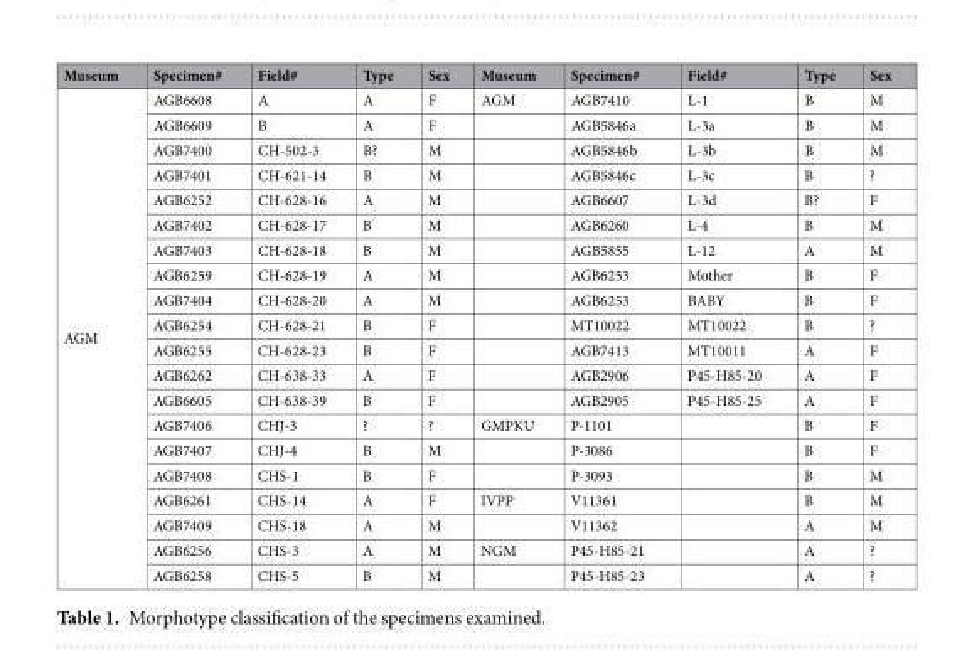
<table><thead><tr><td>Museum</td><td>Specimen#</td><td>Field#</td><td>Type</td><td>Sex</td><td>Museum</td><td>Specimen#</td><td>Field#</td><td>Type</td><td>Sex</td></tr></thead><tbody><tr><td rowspan="20">AGM</td><td>AGB6608</td><td>A</td><td>A</td><td>F</td><td>AGM</td><td>AGB7410</td><td>L-1</td><td>B</td><td>M</td></tr><tr><td>AGB6609</td><td>B</td><td>A</td><td>F</td><td></td><td>AGB5846a</td><td>L-3a</td><td>B</td><td>M</td></tr><tr><td>AGB7400</td><td>CH-502-3</td><td>B?</td><td>M</td><td></td><td>AGB5846b</td><td>L-3b</td><td>B</td><td>M</td></tr><tr><td>AGB7401</td><td>CH-621-14</td><td>B</td><td>M</td><td></td><td>AGB5846c</td><td>L-3c</td><td>B</td><td>?</td></tr><tr><td>AGB6252</td><td>CH-628-16</td><td>A</td><td>M</td><td></td><td>AGB6607</td><td>L-3d</td><td>B?</td><td>F</td></tr><tr><td>AGB7402</td><td>CH-628-17</td><td>B</td><td>M</td><td></td><td>AGB6260</td><td>L-4</td><td>B</td><td>M</td></tr><tr><td>AGB7403</td><td>CH-628-18</td><td>B</td><td>M</td><td></td><td>AGB5855</td><td>L-12</td><td>A</td><td>M</td></tr><tr><td>AGB6259</td><td>CH-628-19</td><td>A</td><td>M</td><td></td><td>AGB6253</td><td>Mother</td><td>B</td><td>F</td></tr><tr><td>AGB7404</td><td>CH-628-20</td><td>A</td><td>M</td><td></td><td>AGB6253</td><td>BABY</td><td>B</td><td>F</td></tr><tr><td>AGB6254</td><td>CH-628-21</td><td>B</td><td>F</td><td></td><td>MT10022</td><td>MT10022</td><td>B</td><td>?</td></tr><tr><td>AGB6255</td><td>CH-628-23</td><td>B</td><td>F</td><td></td><td>AGB7413</td><td>MT10011</td><td>A</td><td>F</td></tr><tr><td>AGB6262</td><td>CH-638-33</td><td>A</td><td>F</td><td></td><td>AGB2906</td><td>P45-H85-20</td><td>A</td><td>F</td></tr><tr><td>AGB6605</td><td>CH-638-39</td><td>B</td><td>F</td><td></td><td>AGB2905</td><td>P45-H85-25</td><td>A</td><td>F</td></tr><tr><td>AGB7406</td><td>CHJ-3</td><td>?</td><td>?</td><td>GMPKU</td><td>P-1101</td><td></td><td>B</td><td>F</td></tr><tr><td>AGB7407</td><td>CHJ-4</td><td>B</td><td>M</td><td></td><td>P-3086</td><td></td><td>B</td><td>F</td></tr><tr><td>AGB7408</td><td>CHS-1</td><td>B</td><td>F</td><td></td><td>P-3093</td><td></td><td>B</td><td>M</td></tr><tr><td>AGB6261</td><td>CHS-14</td><td>A</td><td>F</td><td>IVPP</td><td>V11361</td><td></td><td>B</td><td>M</td></tr><tr><td>AGB7409</td><td>CHS-18</td><td>A</td><td>M</td><td></td><td>V11362</td><td></td><td>A</td><td>M</td></tr><tr><td>AGB6256</td><td>CHS-3</td><td>A</td><td>M</td><td>NGM</td><td>P45-H85-21</td><td></td><td>A</td><td>?</td></tr><tr><td>AGB6258</td><td>CHS-5</td><td>B</td><td>M</td><td></td><td>P45-H85-23</td><td></td><td>A</td><td>?</td></tr></tbody></table>